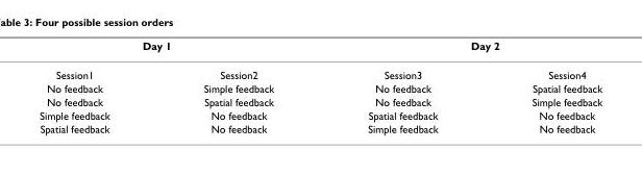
<table><thead><tr><td colspan="2">Day 1</td><td colspan="2">Day 2</td></tr><tr><td>Session1</td><td>Session2</td><td>Session3</td><td>Session4</td></tr></thead><tbody><tr><td>No feedback</td><td>Simple feedback</td><td>No feedback</td><td>Spatial feedback</td></tr><tr><td>No feedback</td><td>Spatial feedback</td><td>No feedback</td><td>Simple feedback</td></tr><tr><td>Simple feedback</td><td>No feedback</td><td>Spatial feedback</td><td>No feedback</td></tr><tr><td>Spatial feedback</td><td>No feedback</td><td>Simple feedback</td><td>No feedback</td></tr></tbody></table>